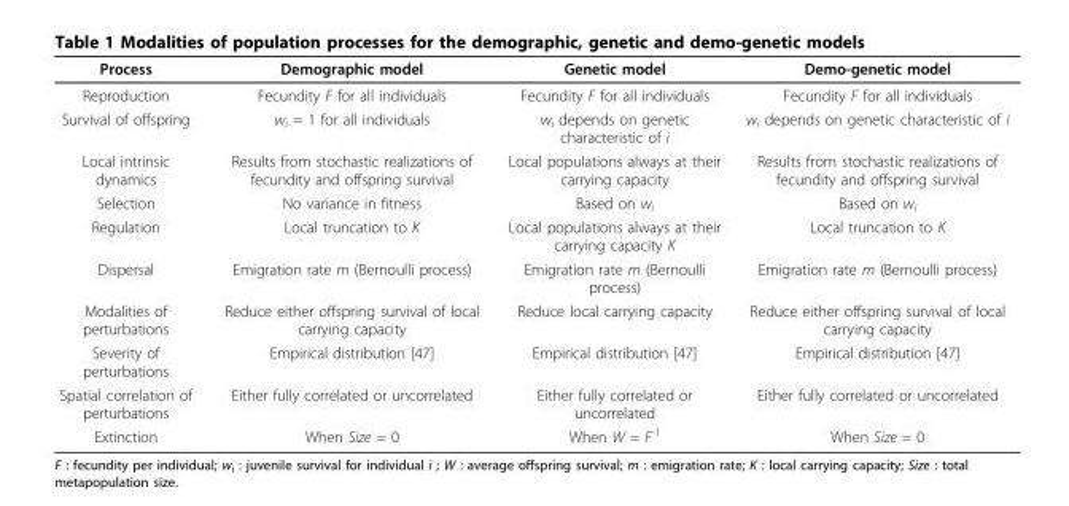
<table><thead><tr><td>Process</td><td>Demographic model</td><td>Genetic model</td><td>Demo-genetic model</td></tr></thead><tbody><tr><td>Reproduction</td><td>Fecundity F for all individuals</td><td>Fecundity F for all individuals</td><td>Fecundity F for all individuals</td></tr><tr><td>Survival of offspring</td><td>w<sub>i</sub> = 1 for all individuals</td><td>w<sub>i</sub> depends on genetic characteristic of i</td><td>w<sub>i</sub> depends on genetic characteristic of i</td></tr><tr><td>Local intrinsic dynamics</td><td>Results from stochastic realizations of fecundity and offspring survival</td><td>Local populations always at their carrying capacity</td><td>Results from stochastic realizations of fecundity and offspring survival</td></tr><tr><td>Selection</td><td>No variance in fitness</td><td>Based on w<sub>i</sub></td><td>Based on w<sub>i</sub></td></tr><tr><td>Regulation</td><td>Local truncation to K</td><td>Local populations always at their carrying capacity K</td><td>Local truncation to K</td></tr><tr><td>Dispersal</td><td>Emigration rate m (Bernoulli process)</td><td>Emigration rate m (Bernoulli process)</td><td>Emigration rate m (Bernoulli process)</td></tr><tr><td>Modalities of perturbations</td><td>Reduce either offspring survival of local carrying capacity</td><td>Reduce local carrying capacity</td><td>Reduce either offspring survival of local carrying capacity</td></tr><tr><td>Severity of perturbations</td><td>Empirical distribution [47]</td><td>Empirical distribution [47]</td><td>Empirical distribution [47]</td></tr><tr><td>Spatial correlation of perturbations</td><td>Either fully correlated or uncorrelated</td><td>Either fully correlated or uncorrelated</td><td>Either fully correlated or uncorrelated</td></tr><tr><td>Extinction</td><td>When Size = 0</td><td>When W = F<sup>-1</sup></td><td>When Size = 0</td></tr></tbody></table>